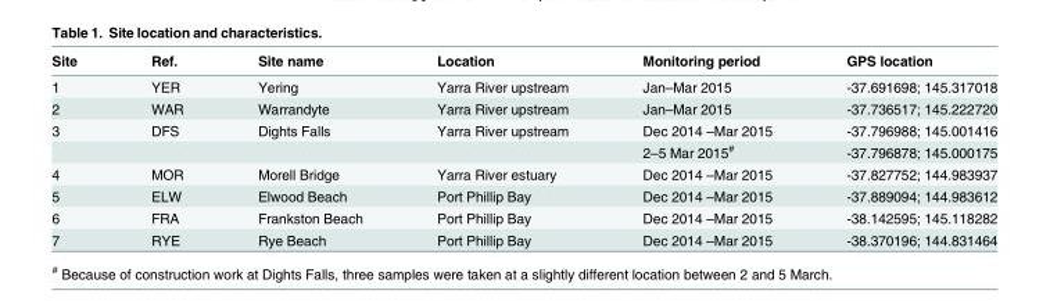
<table><thead><tr><td>Site</td><td>Ref.</td><td>Site name</td><td>Location</td><td>Monitoring period</td><td>GPS location</td></tr></thead><tbody><tr><td>1</td><td>YER</td><td>Yering</td><td>Yarra River upstream</td><td>Jan–Mar 2015</td><td>-37.691698; 145.317018</td></tr><tr><td>2</td><td>WAR</td><td>Warrandyte</td><td>Yarra River upstream</td><td>Jan–Mar 2015</td><td>-37.736517; 145.222720</td></tr><tr><td rowspan="2">3</td><td>DFS</td><td>Dights Falls</td><td>Yarra River upstream</td><td>Dec 2014 –Mar 2015</td><td>-37.796988; 145.001416</td></tr><tr><td></td><td></td><td></td><td>2–5 Mar 2015<sup>#</sup></td><td>-37.796878; 145.000175</td></tr><tr><td>4</td><td>MOR</td><td>Morell Bridge</td><td>Yarra River estuary</td><td>Dec 2014 –Mar 2015</td><td>-37.827752; 144.983937</td></tr><tr><td>5</td><td>ELW</td><td>Elwood Beach</td><td>Port Phillip Bay</td><td>Dec 2014 –Mar 2015</td><td>-37.889094; 144.983612</td></tr><tr><td>6</td><td>FRA</td><td>Frankston Beach</td><td>Port Phillip Bay</td><td>Dec 2014 –Mar 2015</td><td>-38.142595; 145.118282</td></tr><tr><td>7</td><td>RYE</td><td>Rye Beach</td><td>Port Phillip Bay</td><td>Dec 2014 –Mar 2015</td><td>-38.370196; 144.831464</td></tr></tbody></table>